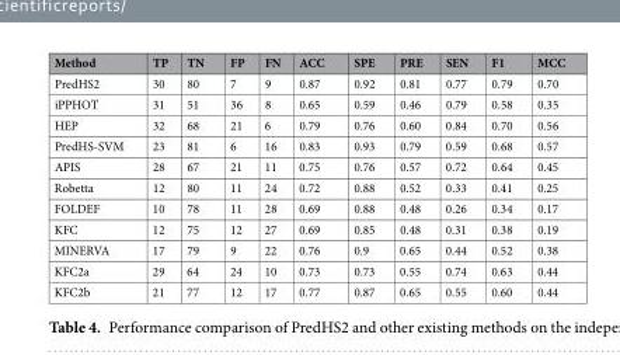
<table><thead><tr><td>Method</td><td>TP</td><td>TN</td><td>FP</td><td>FN</td><td>ACC</td><td>SPE</td><td>PRE</td><td>SEN</td><td>F1</td><td>MCC</td></tr></thead><tbody><tr><td>PredHS2</td><td>30</td><td>80</td><td>7</td><td>9</td><td>0.87</td><td>0.92</td><td>0.81</td><td>0.77</td><td>0.79</td><td>0.70</td></tr><tr><td>iPPHOT</td><td>31</td><td>51</td><td>36</td><td>8</td><td>0.65</td><td>0.59</td><td>0.46</td><td>0.79</td><td>0.58</td><td>0.35</td></tr><tr><td>HEP</td><td>32</td><td>68</td><td>21</td><td>6</td><td>0.79</td><td>0.76</td><td>0.60</td><td>0.84</td><td>0.70</td><td>0.56</td></tr><tr><td>PredHS-SVM</td><td>23</td><td>81</td><td>6</td><td>16</td><td>0.83</td><td>0.93</td><td>0.79</td><td>0.59</td><td>0.68</td><td>0.57</td></tr><tr><td>APIS</td><td>28</td><td>67</td><td>21</td><td>11</td><td>0.75</td><td>0.76</td><td>0.57</td><td>0.72</td><td>0.64</td><td>0.45</td></tr><tr><td>Robetta</td><td>12</td><td>80</td><td>11</td><td>24</td><td>0.72</td><td>0.88</td><td>0.52</td><td>0.33</td><td>0.41</td><td>0.25</td></tr><tr><td>FOLDEF</td><td>10</td><td>78</td><td>11</td><td>28</td><td>0.69</td><td>0.88</td><td>0.48</td><td>0.26</td><td>0.34</td><td>0.17</td></tr><tr><td>KFC</td><td>12</td><td>75</td><td>12</td><td>27</td><td>0.69</td><td>0.85</td><td>0.48</td><td>0.31</td><td>0.38</td><td>0.19</td></tr><tr><td>MINERVA</td><td>17</td><td>79</td><td>9</td><td>22</td><td>0.76</td><td>0.9</td><td>0.65</td><td>0.44</td><td>0.52</td><td>0.38</td></tr><tr><td>KFC2a</td><td>29</td><td>64</td><td>24</td><td>10</td><td>0.73</td><td>0.73</td><td>0.55</td><td>0.74</td><td>0.63</td><td>0.44</td></tr><tr><td>KFC2b</td><td>21</td><td>77</td><td>12</td><td>17</td><td>0.77</td><td>0.87</td><td>0.65</td><td>0.55</td><td>0.60</td><td>0.44</td></tr></tbody></table>